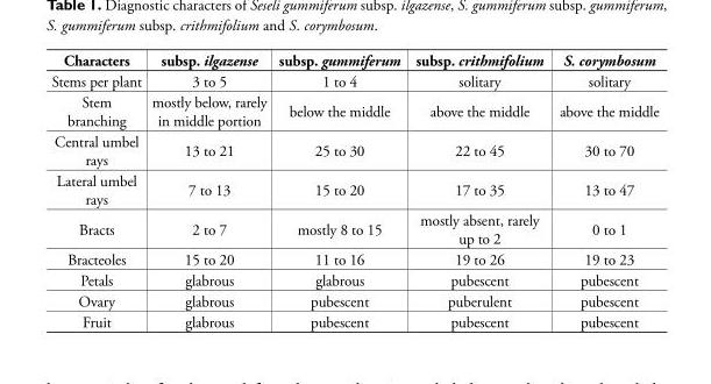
<table><thead><tr><td>Characters</td><td>subsp. ilgazense</td><td>subsp. gummiferum</td><td>subsp. crithmifolium</td><td>S. corymbosum</td></tr></thead><tbody><tr><td>Stems per plant</td><td>3 to 5</td><td>1 to 4</td><td>solitary</td><td>solitary</td></tr><tr><td>Stem branching</td><td>mostly below, rarely in middle portion</td><td>below the middle</td><td>above the middle</td><td>above the middle</td></tr><tr><td>Central umbel rays</td><td>13 to 21</td><td>25 to 30</td><td>22 to 45</td><td>30 to 70</td></tr><tr><td>Lateral umbel rays</td><td>7 to 13</td><td>15 to 20</td><td>17 to 35</td><td>13 to 47</td></tr><tr><td>Bracts</td><td>2 to 7</td><td>mostly 8 to 15</td><td>mostly absent, rarely up to 2</td><td>0 to 1</td></tr><tr><td>Bracteoles</td><td>15 to 20</td><td>11 to 16</td><td>19 to 26</td><td>19 to 23</td></tr><tr><td>Petals</td><td>glabrous</td><td>glabrous</td><td>pubescent</td><td>pubescent</td></tr><tr><td>Ovary</td><td>glabrous</td><td>pubescent</td><td>puberulent</td><td>pubescent</td></tr><tr><td>Fruit</td><td>glabrous</td><td>pubescent</td><td>pubescent</td><td>pubescent</td></tr></tbody></table>